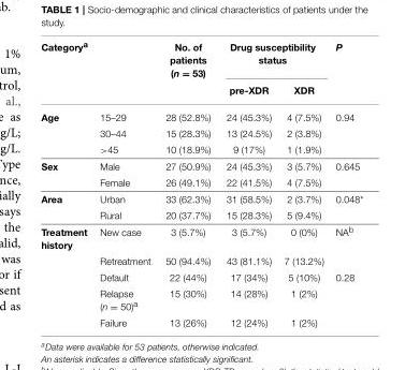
<table><thead><tr><td colspan="2">Category<sup>a</sup></td><td rowspan="2">No. of patients (n = 53)</td><td colspan="2">Drug susceptibility status</td><td rowspan="2">P</td></tr><tr><td></td><td></td><td>pre-XDR</td><td>XDR</td></tr></thead><tbody><tr><td rowspan="3">Age</td><td>15–29</td><td>28 (52.8%)</td><td>24 (45.3%)</td><td>4 (7.5%)</td><td>0.94</td></tr><tr><td>30–44</td><td>15 (28.3%)</td><td>13 (24.5%)</td><td>2 (3.8%)</td><td></td></tr><tr><td>&gt;45</td><td>10 (18.9%)</td><td>9 (17%)</td><td>1 (1.9%)</td><td></td></tr><tr><td rowspan="2">Sex</td><td>Male</td><td>27 (50.9%)</td><td>24 (45.3%)</td><td>3 (5.7%)</td><td>0.645</td></tr><tr><td>Female</td><td>26 (49.1%)</td><td>22 (41.5%)</td><td>4 (7.5%)</td><td></td></tr><tr><td rowspan="2">Area</td><td>Urban</td><td>33 (62.3%)</td><td>31 (58.5%)</td><td>2 (3.7%)</td><td>0.048*</td></tr><tr><td>Rural</td><td>20 (37.7%)</td><td>15 (28.3%)</td><td>5 (9.4%)</td><td></td></tr><tr><td rowspan="5">Treatment history</td><td>New case</td><td>3 (5.7%)</td><td>3 (5.7%)</td><td>0 (0%)</td><td>NA<sup>b</sup></td></tr><tr><td>Retreatment</td><td>50 (94.4%)</td><td>43 (81.1%)</td><td>7 (13.2%)</td><td></td></tr><tr><td>Default</td><td>22 (44%)</td><td>17 (34%)</td><td>5 (10%)</td><td>0.28</td></tr><tr><td>Relapse (n = 50)<sup>a</sup></td><td>15 (30%)</td><td>14 (28%)</td><td>1 (2%)</td><td></td></tr><tr><td>Failure</td><td>13 (26%)</td><td>12 (24%)</td><td>1 (2%)</td><td></td></tr></tbody></table>